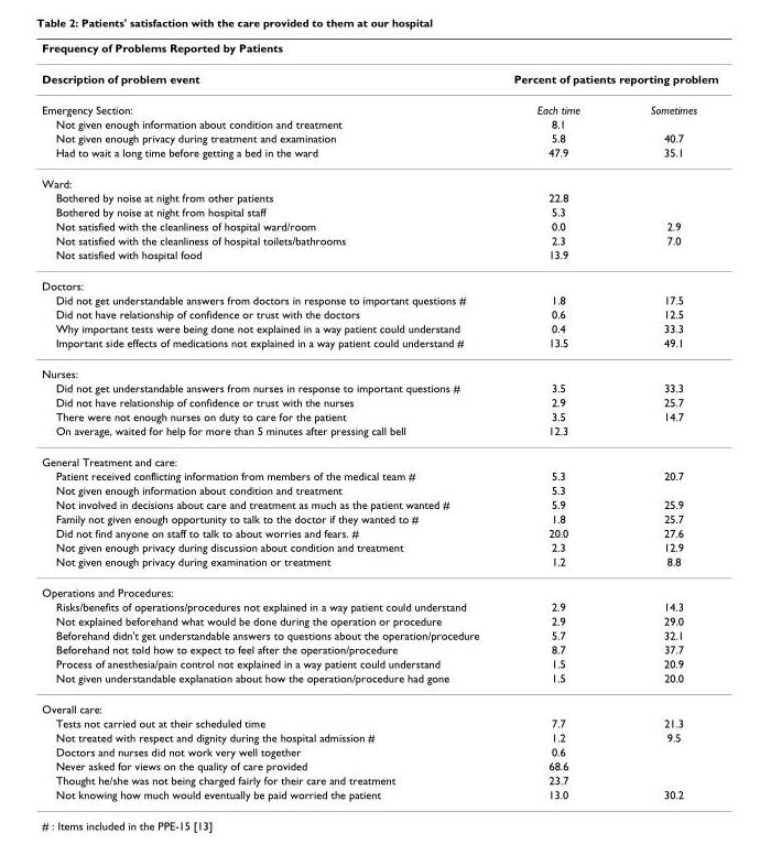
<table><thead><tr><td colspan="3">Frequency of Problems Reported by Patients</td></tr><tr><td rowspan="2">Description of problem event Emergency Section:</td><td colspan="2">Percent of patients reporting problem</td></tr><tr><td>Each time</td><td>Sometimes</td></tr></thead><tbody><tr><td>Not given enough information about condition and treatment</td><td>8.1</td><td></td></tr><tr><td>Not given enough privacy during treatment and examination</td><td>5.8</td><td>40.7</td></tr><tr><td>Had to wait a long time before getting a bed in the ward</td><td>47.9</td><td>35.1</td></tr><tr><td colspan="3">Ward:</td></tr><tr><td>Bothered by noise at night from other patients</td><td>22.8</td><td></td></tr><tr><td>Bothered by noise at night from hospital staff</td><td>5.3</td><td></td></tr><tr><td>Not satisfied with the cleanliness of hospital ward/room</td><td>0.0</td><td>2.9</td></tr><tr><td>Not satisfied with the cleanliness of hospital toilets/bathrooms</td><td>2.3</td><td>7.0</td></tr><tr><td>Not satisfied with hospital food</td><td>13.9</td><td></td></tr><tr><td colspan="3">Doctors:</td></tr><tr><td>Did not get understandable answers from doctors in response to important questions #</td><td>1.8</td><td>17.5</td></tr><tr><td>Did not have relationship of confidence or trust with the doctors</td><td>0.6</td><td>12.5</td></tr><tr><td>Why important tests were being done not explained in a way patient could understand</td><td>0.4</td><td>33.3</td></tr><tr><td>Important side effects of medications not explained in a way patient could understand #</td><td>13.5</td><td>49.1</td></tr><tr><td colspan="3">Nurses:</td></tr><tr><td>Did not get understandable answers from nurses in response to important questions #</td><td>3.5</td><td>33.3</td></tr><tr><td>Did not have relationship of confidence or trust with the nurses</td><td>2.9</td><td>25.7</td></tr><tr><td>There were not enough nurses on duty to care for the patient</td><td>3.5</td><td>14.7</td></tr><tr><td>On average, waited for help for more than 5 minutes after pressing call bell</td><td>12.3</td><td></td></tr><tr><td colspan="3">General Treatment and care:</td></tr><tr><td>Patient received conflicting information from members of the medical team #</td><td>5.3</td><td>20.7</td></tr><tr><td>Not given enough information about condition and treatment</td><td>5.3</td><td></td></tr><tr><td>Not involved in decisions about care and treatment as much as the patient wanted #</td><td>5.9</td><td>25.9</td></tr><tr><td>Family not given enough opportunity to talk to the doctor if they wanted to #</td><td>1.8</td><td>25.7</td></tr><tr><td>Did not find anyone on staff to talk to about worries and fears. #</td><td>20.0</td><td>27.6</td></tr><tr><td>Not given enough privacy during discussion about condition and treatment</td><td>2.3</td><td>12.9</td></tr><tr><td>Not given enough privacy during examination or treatment</td><td>1.2</td><td>8.8</td></tr><tr><td colspan="3">Operations and Procedures:</td></tr><tr><td>Risks/benefits of operations/procedures not explained in a way patient could understand</td><td>2.9</td><td>14.3</td></tr><tr><td>Not explained beforehand what would be done during the operation or procedure</td><td>2.9</td><td>29.0</td></tr><tr><td>Beforehand didn&#x27;t get understandable answers to questions about the operation/procedure</td><td>5.7</td><td>32.1</td></tr><tr><td>Beforehand not told how to expect to feel after the operation/procedure</td><td>8.7</td><td>37.7</td></tr><tr><td>Process of anesthesia/pain control not explained in a way patient could understand</td><td>1.5</td><td>20.9</td></tr><tr><td>Not given understandable explanation about how the operation/procedure had gone</td><td>1.5</td><td>20.0</td></tr><tr><td colspan="3">Overall care:</td></tr><tr><td>Tests not carried out at their scheduled time</td><td>7.7</td><td>21.3</td></tr><tr><td>Not treated with respect and dignity during the hospital admission #</td><td>1.2</td><td>9.5</td></tr><tr><td>Doctors and nurses did not work very well together</td><td>0.6</td><td></td></tr><tr><td>Never asked for views on the quality of care provided</td><td>68.6</td><td></td></tr><tr><td>Thought he/she was not being charged fairly for their care and treatment</td><td>23.7</td><td></td></tr><tr><td>Not knowing how much would eventually be paid worried the patient</td><td>13.0</td><td>30.2</td></tr></tbody></table>